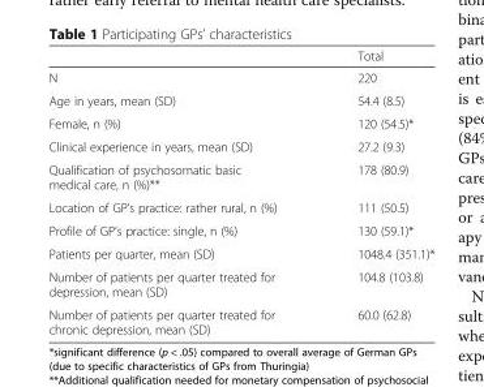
<table><thead><tr><td></td><td>Total</td></tr></thead><tbody><tr><td>N</td><td>220</td></tr><tr><td>Age in years, mean (SD)</td><td>54.4 (8.5)</td></tr><tr><td>Female, n (%)</td><td>120 (54.5)*</td></tr><tr><td>Clinical experience in years, mean (SD)</td><td>27.2 (9.3)</td></tr><tr><td>Qualification of psychosomatic basic medical care, n (%)**</td><td>178 (80.9)</td></tr><tr><td>Location of GP’s practice: rather rural, n (%)</td><td>111 (50.5)</td></tr><tr><td>Profile of GP’s practice: single, n (%)</td><td>130 (59.1)*</td></tr><tr><td>Patients per quarter, mean (SD)</td><td>1048.4 (351.1)*</td></tr><tr><td>Number of patients per quarter treated for depression, mean (SD)</td><td>104.8 (103.8)</td></tr><tr><td>Number of patients per quarter treated for chronic depression, mean (SD)</td><td>60.0 (62.8)</td></tr></tbody></table>